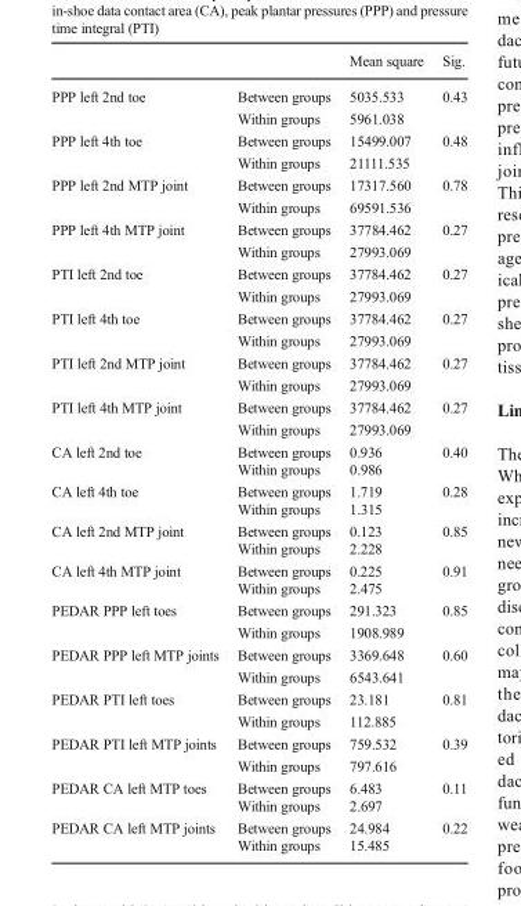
<table><thead><tr><td></td><td></td><td>Mean square</td><td>Sig.</td></tr></thead><tbody><tr><td rowspan="2">PPP left 2nd toe</td><td>Between groups</td><td>5035.533</td><td>0.43</td></tr><tr><td>Within groups</td><td>5961.038</td><td></td></tr><tr><td rowspan="2">PPP left 4th toe</td><td>Between groups</td><td>15499.007</td><td>0.48</td></tr><tr><td>Within groups</td><td>21111.535</td><td></td></tr><tr><td rowspan="2">PPP left 2nd MTP joint</td><td>Between groups</td><td>17317.560</td><td>0.78</td></tr><tr><td>Within groups</td><td>69591.536</td><td></td></tr><tr><td rowspan="2">PPP left 4th MTP joint</td><td>Between groups</td><td>37784.462</td><td>0.27</td></tr><tr><td>Within groups</td><td>27993.069</td><td></td></tr><tr><td rowspan="2">PTI left 2nd toe</td><td>Between groups</td><td>37784.462</td><td>0.27</td></tr><tr><td>Within groups</td><td>27993.069</td><td></td></tr><tr><td rowspan="2">PTI left 4th toe</td><td>Between groups</td><td>37784.462</td><td>0.27</td></tr><tr><td>Within groups</td><td>27993.069</td><td></td></tr><tr><td rowspan="2">PTI left 2nd MTP joint</td><td>Between groups</td><td>37784.462</td><td>0.27</td></tr><tr><td>Within groups</td><td>27993.069</td><td></td></tr><tr><td rowspan="2">PTI left 4th MTP joint</td><td>Between groups</td><td>37784.462</td><td>0.27</td></tr><tr><td>Within groups</td><td>27993.069</td><td></td></tr><tr><td rowspan="2">CA left 2nd toe</td><td>Between groups</td><td>0.936</td><td rowspan="2">0.40</td></tr><tr><td>Within groups</td><td>0.986</td></tr><tr><td rowspan="2">CA left 4th toe</td><td>Between groups</td><td>1.719</td><td rowspan="2">0.28</td></tr><tr><td>Within groups</td><td>1.315</td></tr><tr><td rowspan="2">CA left 2nd MTP joint</td><td>Between groups</td><td>0.123</td><td rowspan="2">0.85</td></tr><tr><td>Within groups</td><td>2.228</td></tr><tr><td rowspan="2">CA left 4th MTP joint</td><td>Between groups</td><td>0.225</td><td rowspan="2">0.91</td></tr><tr><td>Within groups</td><td>2.475</td></tr><tr><td rowspan="2">PEDAR PPP left toes</td><td>Between groups</td><td>291.323</td><td>0.85</td></tr><tr><td>Within groups</td><td>1908.989</td><td></td></tr><tr><td rowspan="2">PEDAR PPP left MTP joints</td><td>Between groups</td><td>3369.648</td><td>0.60</td></tr><tr><td>Within groups</td><td>6543.641</td><td></td></tr><tr><td rowspan="2">PEDAR PTI left toes</td><td>Between groups</td><td>23.181</td><td>0.81</td></tr><tr><td>Within groups</td><td>112.885</td><td></td></tr><tr><td rowspan="2">PEDAR PTI left MTP joints</td><td>Between groups</td><td>759.532</td><td>0.39</td></tr><tr><td>Within groups</td><td>797.616</td><td></td></tr><tr><td rowspan="2">PEDAR CA left MTP toes</td><td>Between groups</td><td>6.483</td><td rowspan="2">0.11</td></tr><tr><td>Within groups</td><td>2.697</td></tr><tr><td rowspan="2">PEDAR CA left MTP joints</td><td>Between groups</td><td>24.984</td><td rowspan="2">0.22</td></tr><tr><td>Within groups</td><td>15.485</td></tr></tbody></table>